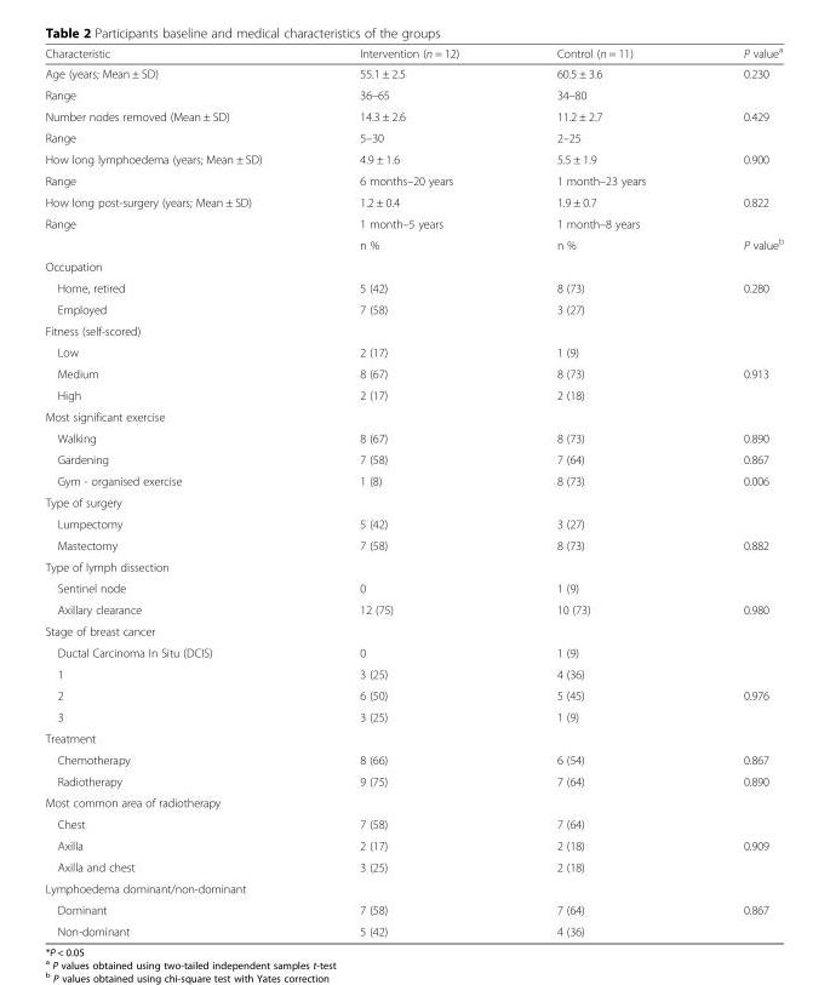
<table><thead><tr><td>Characteristic</td><td>Intervention (n = 12)</td><td>Control (n = 11)</td><td>P value<sup>a</sup></td></tr></thead><tbody><tr><td>Age (years; Mean ± SD)</td><td>55.1 ± 2.5</td><td>60.5 ± 3.6</td><td>0.230</td></tr><tr><td>Range</td><td>36–65</td><td>34–80</td><td></td></tr><tr><td>Number nodes removed (Mean ± SD)</td><td>14.3 ± 2.6</td><td>11.2 ± 2.7</td><td>0.429</td></tr><tr><td>Range</td><td>5–30</td><td>2–25</td><td></td></tr><tr><td>How long lymphoedema (years; Mean ± SD)</td><td>4.9 ± 1.6</td><td>5.5 ± 1.9</td><td>0.900</td></tr><tr><td>Range</td><td>6 months–20 years</td><td>1 month–23 years</td><td></td></tr><tr><td>How long post-surgery (years; Mean ± SD)</td><td>1.2 ± 0.4</td><td>1.9 ± 0.7</td><td>0.822</td></tr><tr><td rowspan="2">Range</td><td>1 month–5 years</td><td>1 month–8 years</td><td></td></tr><tr><td>n %</td><td>n %</td><td>P value<sup>b</sup></td></tr><tr><td colspan="4">Occupation</td></tr><tr><td>Home, retired</td><td>5 (42)</td><td>8 (73)</td><td>0.280</td></tr><tr><td>Employed</td><td>7 (58)</td><td>3 (27)</td><td></td></tr><tr><td colspan="4">Fitness (self-scored)</td></tr><tr><td>Low</td><td>2 (17)</td><td>1 (9)</td><td></td></tr><tr><td>Medium</td><td>8 (67)</td><td>8 (73)</td><td>0.913</td></tr><tr><td>High</td><td>2 (17)</td><td>2 (18)</td><td></td></tr><tr><td colspan="4">Most significant exercise</td></tr><tr><td>Walking</td><td>8 (67)</td><td>8 (73)</td><td>0.890</td></tr><tr><td>Gardening</td><td>7 (58)</td><td>7 (64)</td><td>0.867</td></tr><tr><td>Gym - organised exercise</td><td>1 (8)</td><td>8 (73)</td><td>0.006</td></tr><tr><td colspan="4">Type of surgery</td></tr><tr><td>Lumpectomy</td><td>5 (42)</td><td>3 (27)</td><td></td></tr><tr><td>Mastectomy</td><td>7 (58)</td><td>8 (73)</td><td>0.882</td></tr><tr><td colspan="4">Type of lymph dissection</td></tr><tr><td>Sentinel node</td><td>0</td><td>1 (9)</td><td></td></tr><tr><td>Axillary clearance</td><td>12 (75)</td><td>10 (73)</td><td>0.980</td></tr><tr><td colspan="4">Stage of breast cancer</td></tr><tr><td>Ductal Carcinoma In Situ (DCIS)</td><td>0</td><td>1 (9)</td><td></td></tr><tr><td>1</td><td>3 (25)</td><td>4 (36)</td><td></td></tr><tr><td>2</td><td>6 (50)</td><td>5 (45)</td><td>0.976</td></tr><tr><td>3</td><td>3 (25)</td><td>1 (9)</td><td></td></tr><tr><td colspan="4">Treatment</td></tr><tr><td>Chemotherapy</td><td>8 (66)</td><td>6 (54)</td><td>0.867</td></tr><tr><td>Radiotherapy</td><td>9 (75)</td><td>7 (64)</td><td>0.890</td></tr><tr><td colspan="4">Most common area of radiotherapy</td></tr><tr><td>Chest</td><td>7 (58)</td><td>7 (64)</td><td></td></tr><tr><td>Axilla</td><td>2 (17)</td><td>2 (18)</td><td>0.909</td></tr><tr><td>Axilla and chest</td><td>3 (25)</td><td>2 (18)</td><td></td></tr><tr><td colspan="4">Lymphoedema dominant/non-dominant</td></tr><tr><td>Dominant</td><td>7 (58)</td><td>7 (64)</td><td>0.867</td></tr><tr><td>Non-dominant</td><td>5 (42)</td><td>4 (36)</td><td></td></tr></tbody></table>